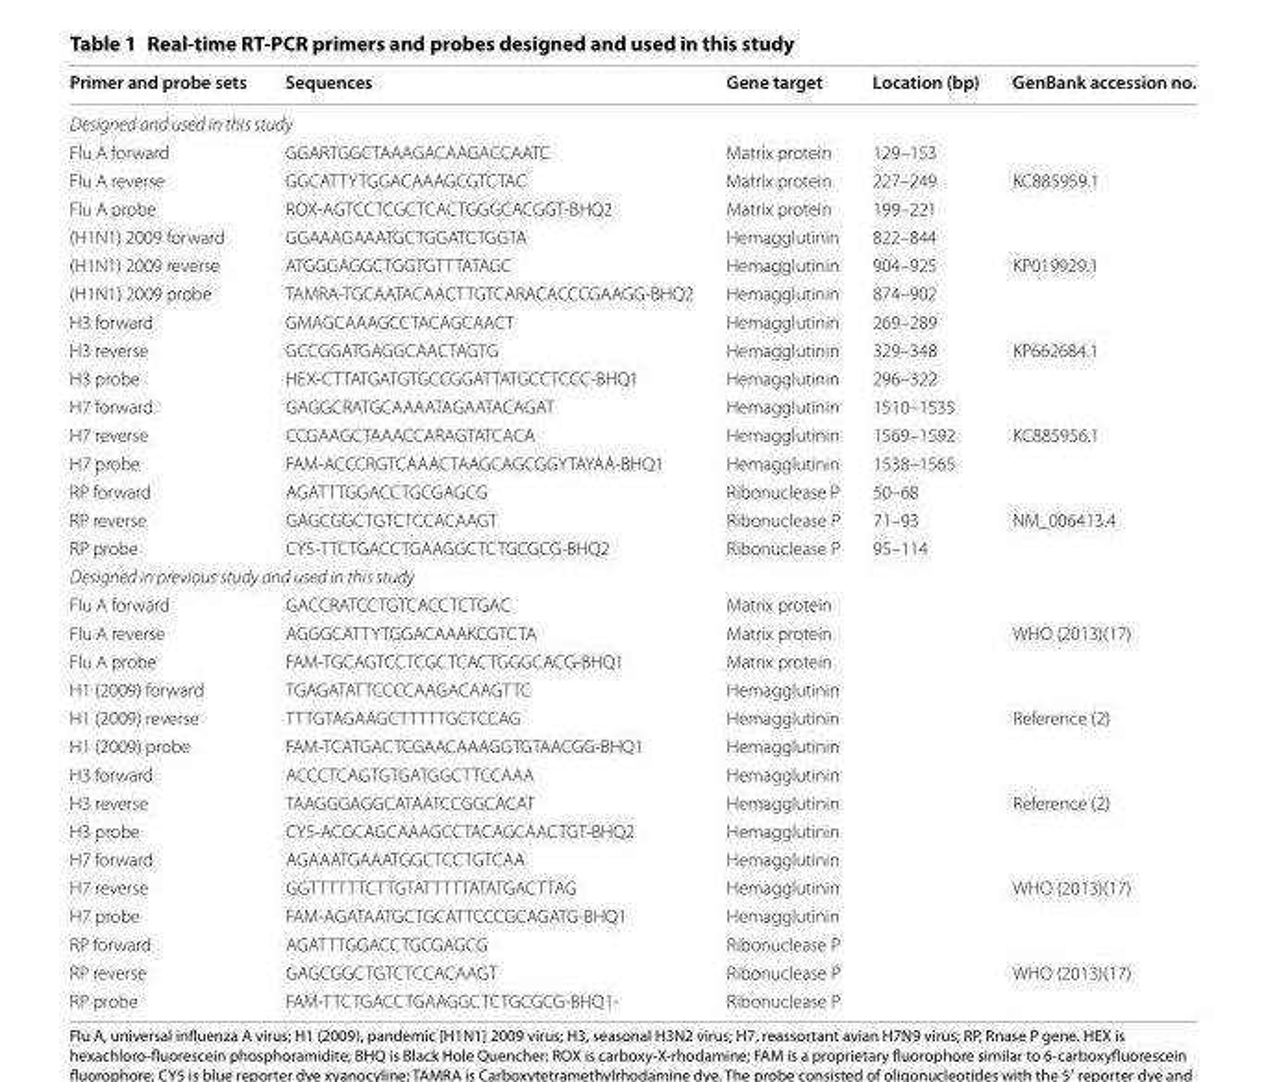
<table><thead><tr><td>Primer and probe sets</td><td>Sequences</td><td>Gene target</td><td>Location (bp)</td><td>GenBank accession no.</td></tr></thead><tbody><tr><td colspan="5">Designed and used in this study</td></tr><tr><td>Flu A forward</td><td>GGARTGGCTAAAGACAAGACCAATC</td><td>Matrix protein</td><td>129–153</td><td></td></tr><tr><td>Flu A reverse</td><td>GGCATTYTGGACAAAGCGTCTAC</td><td>Matrix protein</td><td>227–249</td><td>KC885959.1</td></tr><tr><td>Flu A probe</td><td>ROX-AGTCCTCGCTCACTGGGCACGGT-BHQ2</td><td>Matrix protein</td><td>199–221</td><td></td></tr><tr><td>(H1N1) 2009 forward</td><td>GGAAAGAAATGCTGGATCTGGTA</td><td>Hemagglutinin</td><td>822–844</td><td></td></tr><tr><td>(H1N1) 2009 reverse</td><td>ATGGGAGGCTGGTGTTTATAGC</td><td>Hemagglutinin</td><td>904–925</td><td>KP019929.1</td></tr><tr><td>(H1N1) 2009 probe</td><td>TAMRA-TGCAATACAACTTGTCARACACCCGAAGG-BHQ2</td><td>Hemagglutinin</td><td>874–902</td><td></td></tr><tr><td>H3 forward</td><td>GMAGCAAAGCCTACAGCAACT</td><td>Hemagglutinin</td><td>269–289</td><td></td></tr><tr><td>H3 reverse</td><td>GCCGGATGAGGCAACTAGTG</td><td>Hemagglutinin</td><td>329–348</td><td>KP662684.1</td></tr><tr><td>H3 probe</td><td>HEX-CTTATGATGTGCCGGATTATGCCTCCC-BHQ1</td><td>Hemagglutinin</td><td>296–322</td><td></td></tr><tr><td>H7 forward</td><td>GAGGCRATGCAAAATAGAATACAGAT</td><td>Hemagglutinin</td><td>1510–1535</td><td></td></tr><tr><td>H7 reverse</td><td>CCGAAGCTAAACCARAGTATCACA</td><td>Hemagglutinin</td><td>1569–1592</td><td>KC885956.1</td></tr><tr><td>H7 probe</td><td>FAM-ACCCRGTCAAACTAAGCAGCGGYTAYAA-BHQ1</td><td>Hemagglutinin</td><td>1538–1565</td><td></td></tr><tr><td>RP forward</td><td>AGATTTGGACCTGCGAGCG</td><td>Ribonuclease P</td><td>50–68</td><td></td></tr><tr><td>RP reverse</td><td>GAGCGGCTGTCTCCACAAGT</td><td>Ribonuclease P</td><td>71–93</td><td>NM_006413.4</td></tr><tr><td>RP probe</td><td>CY5-TTCTGACCTGAAGGCTCTGCGCG-BHQ2</td><td>Ribonuclease P</td><td>95–114</td><td></td></tr><tr><td colspan="5">Designed in previous study and used in this study</td></tr><tr><td>Flu A forward</td><td>GACCRATCCTGTCACCTCTGAC</td><td>Matrix protein</td><td></td><td></td></tr><tr><td>Flu A reverse</td><td>AGGGCATTYTGGACAAAKCGTCTA</td><td>Matrix protein</td><td></td><td>WHO (2013)(17)</td></tr><tr><td>Flu A probe</td><td>FAM-TGCAGTCCTCGCTCACTGGGCACG-BHQ1</td><td>Matrix protein</td><td></td><td></td></tr><tr><td>H1 (2009) forward</td><td>TGAGATATTCCCCAAGACAAGTTC</td><td>Hemagglutinin</td><td></td><td></td></tr><tr><td>H1 (2009) reverse</td><td>TTTGTAGAAGCTTTTTGCTCCAG</td><td>Hemagglutinin</td><td></td><td>Reference (2)</td></tr><tr><td>H1 (2009) probe</td><td>FAM-TCATGACTCGAACAAAGGTGTAACGG-BHQ1</td><td>Hemagglutinin</td><td></td><td></td></tr><tr><td>H3 forward</td><td>ACCCTCAGTGTGATGGCTTCCAAA</td><td>Hemagglutinin</td><td></td><td></td></tr><tr><td>H3 reverse</td><td>TAAGGGAGGCATAATCCGGCACAT</td><td>Hemagglutinin</td><td></td><td>Reference (2)</td></tr><tr><td>H3 probe</td><td>CY5-ACGCAGCAAAGCCTACAGCAACTGT-BHQ2</td><td>Hemagglutinin</td><td></td><td></td></tr><tr><td>H7 forward</td><td>AGAAATGAAATGGCTCCTGTCAA</td><td>Hemagglutinin</td><td></td><td></td></tr><tr><td>H7 reverse</td><td>GGTTTTTTCTTGTATTTTTATATGACTTAG</td><td>Hemagglutinin</td><td></td><td>WHO (2013)(17)</td></tr><tr><td>H7 probe</td><td>FAM-AGATAATGCTGCATTCCCGCAGATG-BHQ1</td><td>Hemagglutinin</td><td></td><td></td></tr><tr><td>RP forward</td><td>AGATTTGGACCTGCGAGCG</td><td>Ribonuclease P</td><td></td><td></td></tr><tr><td>RP reverse</td><td>GAGCGGCTGTCTCCACAAGT</td><td>Ribonuclease P</td><td></td><td>WHO (2013)(17)</td></tr><tr><td>RP probe</td><td>FAM-TTCTGACCTGAAGGCTCTGCGCG-BHQ1-</td><td>Ribonuclease P</td><td></td><td></td></tr></tbody></table>